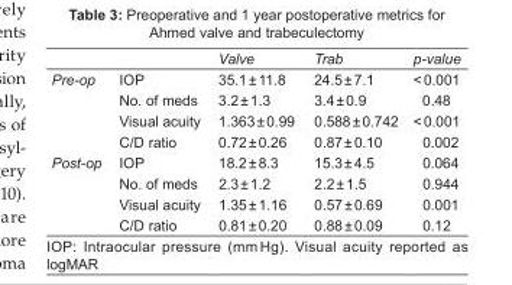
<table><thead><tr><td></td><td></td><td>Valve</td><td>Trab</td><td>p-value</td></tr></thead><tbody><tr><td rowspan="4">Pre-op</td><td>IOP</td><td>35.1 ± 11.8</td><td>24.5 ± 7.1</td><td>&lt; 0.001</td></tr><tr><td>No. of meds</td><td>3.2 ± 1.3</td><td>3.4 ± 0.9</td><td>0.48</td></tr><tr><td>Visual acuity</td><td>1.363 ± 0.99</td><td>0.588 ± 0.742</td><td>&lt; 0.001</td></tr><tr><td>C/D ratio</td><td>0.72 ± 0.26</td><td>0.87 ± 0.10</td><td>0.002</td></tr><tr><td rowspan="4">Post-op</td><td>IOP</td><td>18.2 ± 8.3</td><td>15.3 ± 4.5</td><td>0.064</td></tr><tr><td>No. of meds</td><td>2.3 ± 1.2</td><td>2.2 ± 1.5</td><td>0.944</td></tr><tr><td>Visual acuity</td><td>1.35 ± 1.16</td><td>0.57 ± 0.69</td><td>0.001</td></tr><tr><td>C/D ratio</td><td>0.81 ± 0.20</td><td>0.88 ± 0.09</td><td>0.12</td></tr></tbody></table>